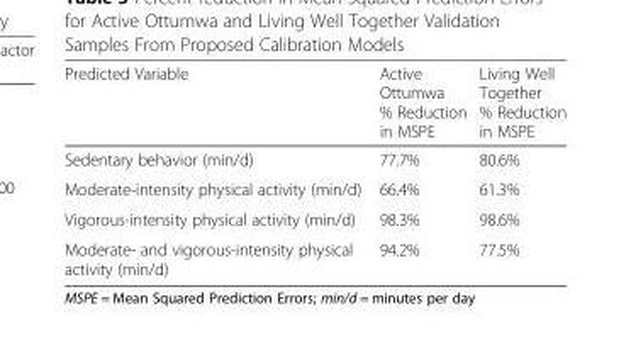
<table><thead><tr><td>Predicted Variable</td><td>Active Ottumwa % Reduction in MSPE</td><td>Living Well Together % Reduction in MSPE</td></tr></thead><tbody><tr><td>Sedentary behavior (min/d)</td><td>77.7%</td><td>80.6%</td></tr><tr><td>Moderate-intensity physical activity (min/d)</td><td>66.4%</td><td>61.3%</td></tr><tr><td>Vigorous-intensity physical activity (min/d)</td><td>98.3%</td><td>98.6%</td></tr><tr><td>Moderate- and vigorous-intensity physical activity (min/d)</td><td>94.2%</td><td>77.5%</td></tr></tbody></table>